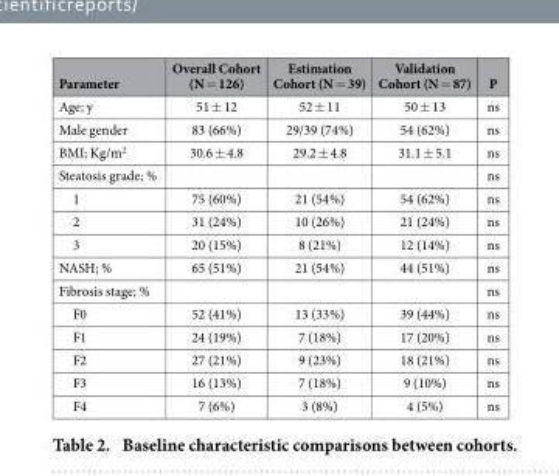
<table><thead><tr><td>Parameter</td><td>Overall Cohort (N = 126)</td><td>Estimation Cohort (N = 39)</td><td>Validation Cohort (N = 87)</td><td>P</td></tr></thead><tbody><tr><td>Age; y</td><td>51 ± 12</td><td>52 ± 11</td><td>50 ± 13</td><td>ns</td></tr><tr><td>Male gender</td><td>83 (66%)</td><td>29/39 (74%)</td><td>54 (62%)</td><td>ns</td></tr><tr><td>BMI; Kg/m<sup>2</sup></td><td>30.6 ± 4.8</td><td>29.2 ± 4.8</td><td>31.1 ± 5.1</td><td>ns</td></tr><tr><td>Steatosis grade; %</td><td></td><td></td><td></td><td>ns</td></tr><tr><td>1</td><td>75 (60%)</td><td>21 (54%)</td><td>54 (62%)</td><td>ns</td></tr><tr><td>2</td><td>31 (24%)</td><td>10 (26%)</td><td>21 (24%)</td><td>ns</td></tr><tr><td>3</td><td>20 (15%)</td><td>8 (21%)</td><td>12 (14%)</td><td>ns</td></tr><tr><td>NASH; %</td><td>65 (51%)</td><td>21 (54%)</td><td>44 (51%)</td><td>ns</td></tr><tr><td>Fibrosis stage; %</td><td></td><td></td><td></td><td>ns</td></tr><tr><td>F0</td><td>52 (41%)</td><td>13 (33%)</td><td>39 (44%)</td><td>ns</td></tr><tr><td>F1</td><td>24 (19%)</td><td>7 (18%)</td><td>17 (20%)</td><td>ns</td></tr><tr><td>F2</td><td>27 (21%)</td><td>9 (23%)</td><td>18 (21%)</td><td>ns</td></tr><tr><td>F3</td><td>16 (13%)</td><td>7 (18%)</td><td>9 (10%)</td><td>ns</td></tr><tr><td>F4</td><td>7 (6%)</td><td>3 (8%)</td><td>4 (5%)</td><td>ns</td></tr></tbody></table>